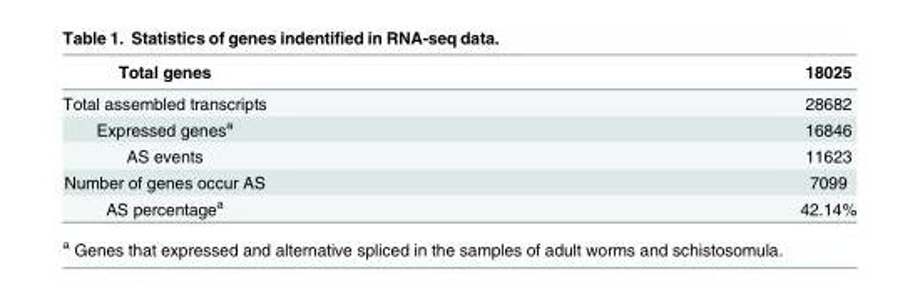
<table><thead><tr><td>Total genes</td><td>18025</td></tr></thead><tbody><tr><td>Total assembled transcripts</td><td>28682</td></tr><tr><td>Expressed genes<sup>a</sup></td><td>16846</td></tr><tr><td>AS events</td><td>11623</td></tr><tr><td>Number of genes occur AS</td><td>7099</td></tr><tr><td>AS percentage<sup>a</sup></td><td>42.14%</td></tr></tbody></table>